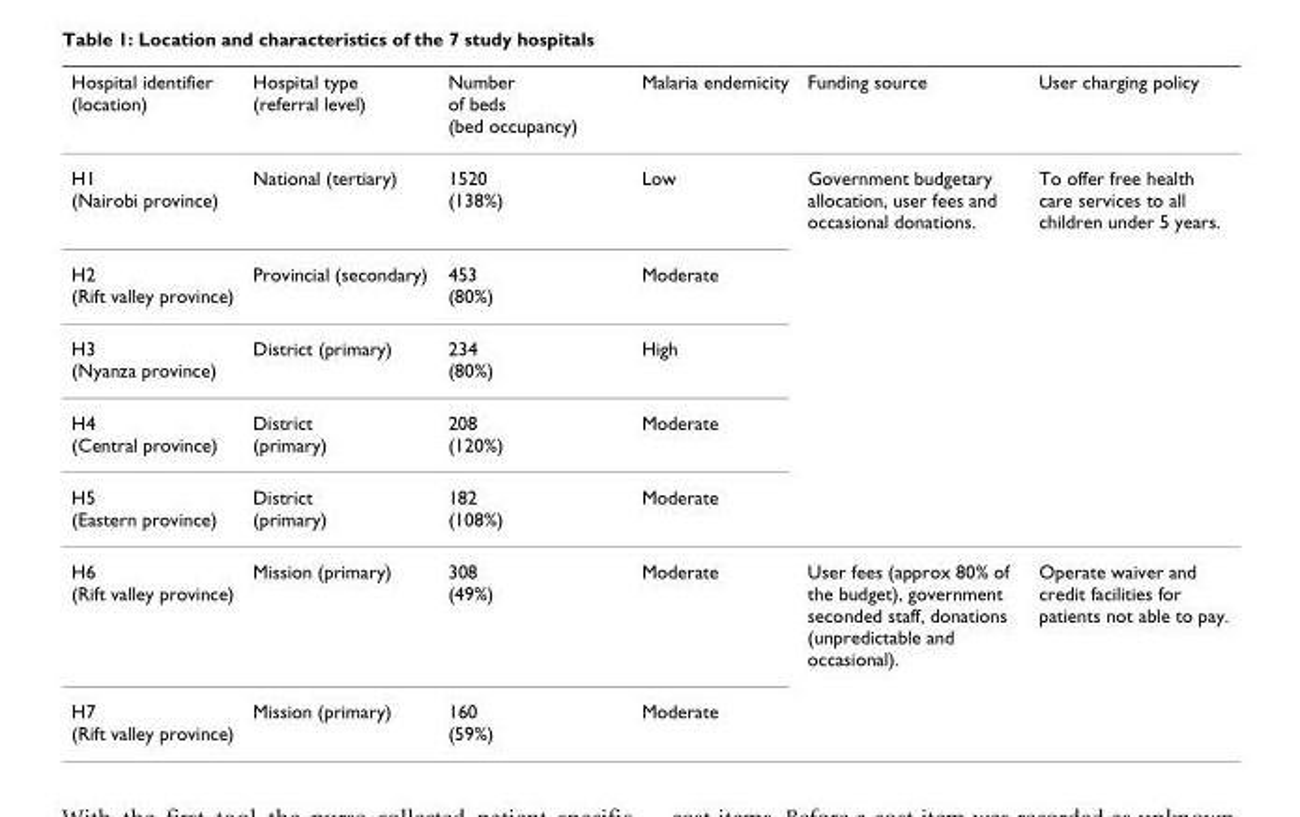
<table><thead><tr><td>Hospital identifier (location)</td><td>Hospital type (referral level)</td><td>Number of beds (bed occupancy)</td><td>Malaria endemicity</td><td>Funding source</td><td>User charging policy</td></tr></thead><tbody><tr><td>H1 (Nairobi province)</td><td>National (tertiary)</td><td>1520 (138%)</td><td>Low</td><td>Government budgetary allocation, user fees and occasional donations.</td><td>To offer free health care services to all children under 5 years.</td></tr><tr><td>H2 (Rift valley province)</td><td>Provincial (secondary)</td><td>453 (80%)</td><td>Moderate</td><td></td><td></td></tr><tr><td>H3 (Nyanza province)</td><td>District (primary)</td><td>234 (80%)</td><td>High</td><td></td><td></td></tr><tr><td>H4 (Central province)</td><td>District (primary)</td><td>208 (120%)</td><td>Moderate</td><td></td><td></td></tr><tr><td>H5 (Eastern province)</td><td>District (primary)</td><td>182 (108%)</td><td>Moderate</td><td></td><td></td></tr><tr><td>H6 (Rift valley province)</td><td>Mission (primary)</td><td>308 (49%)</td><td>Moderate</td><td>User fees (approx 80% of the budget), government seconded staff, donations (unpredictable and occasional).</td><td>Operate waiver and credit facilities for patients not able to pay.</td></tr><tr><td>H7 (Rift valley province)</td><td>Mission (primary)</td><td>160 (59%)</td><td>Moderate</td><td></td><td></td></tr></tbody></table>